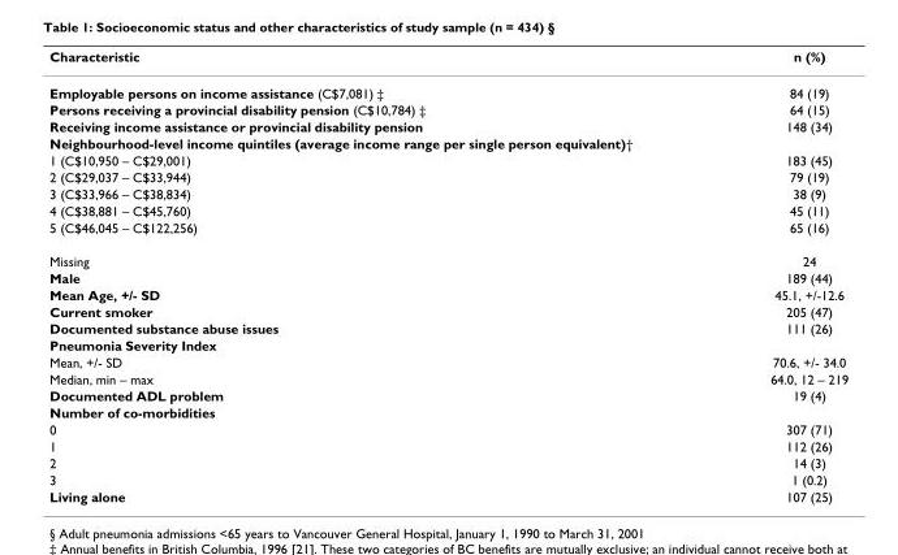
<table><thead><tr><td>Characteristic</td><td>n (%)</td></tr></thead><tbody><tr><td>Employable persons on income assistance (C$7,081) ‡</td><td>84 (19)</td></tr><tr><td>Persons receiving a provincial disability pension (C$10,784) ‡</td><td>64 (15)</td></tr><tr><td>Receiving income assistance or provincial disability pension</td><td>148 (34)</td></tr><tr><td colspan="2">Neighbourhood-level income quintiles (average income range per single person equivalent)†</td></tr><tr><td>1 (C$10,950 – C$29,001)</td><td>183 (45)</td></tr><tr><td>2 (C$29,037 – C$33,944)</td><td>79 (19)</td></tr><tr><td>3 (C$33,966 – C$38,834)</td><td>38 (9)</td></tr><tr><td>4 (C$38,881 – C$45,760)</td><td>45 (11)</td></tr><tr><td>5 (C$46,045 – C$122,256)</td><td>65 (16)</td></tr><tr><td>Missing</td><td>24</td></tr><tr><td>Male</td><td>189 (44)</td></tr><tr><td>Mean Age, +/- SD</td><td>45.1, +/-12.6</td></tr><tr><td>Current smoker</td><td>205 (47)</td></tr><tr><td>Documented substance abuse issues</td><td>111 (26)</td></tr><tr><td colspan="2">Pneumonia Severity Index</td></tr><tr><td>Mean, +/- SD</td><td>70.6, +/- 34.0</td></tr><tr><td>Median, min – max</td><td>64.0, 12 – 219</td></tr><tr><td>Documented ADL problem</td><td>19 (4)</td></tr><tr><td colspan="2">Number of co-morbidities</td></tr><tr><td>0</td><td>307 (71)</td></tr><tr><td>1</td><td>112 (26)</td></tr><tr><td>2</td><td>14 (3)</td></tr><tr><td>3</td><td>1 (0.2)</td></tr><tr><td>Living alone</td><td>107 (25)</td></tr></tbody></table>